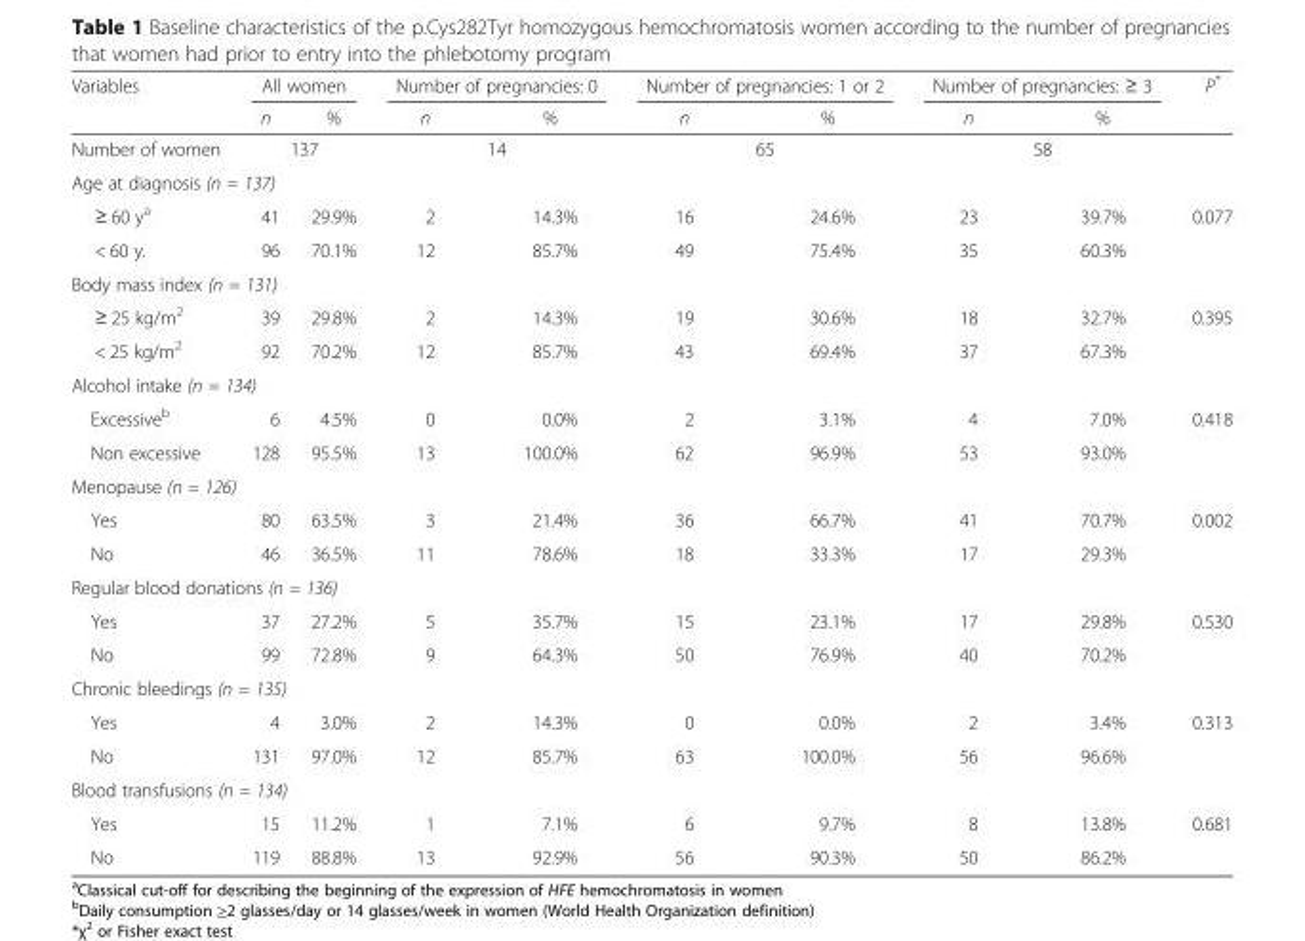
<table><thead><tr><td rowspan="2">Variables</td><td colspan="2">All women</td><td colspan="2">Number of pregnancies: 0</td><td colspan="2">Number of pregnancies: 1 or 2</td><td colspan="2">Number of pregnancies: ≥ 3</td><td rowspan="2">P*</td></tr><tr><td>n</td><td>%</td><td>n</td><td>%</td><td>n</td><td>%</td><td>n</td><td>%</td></tr></thead><tbody><tr><td>Number of women</td><td colspan="2">137</td><td colspan="2">14</td><td colspan="2">65</td><td colspan="2">58</td><td></td></tr><tr><td colspan="10">Age at diagnosis (n = 137)</td></tr><tr><td>≥ 60 y<sup>a</sup></td><td>41</td><td>29.9%</td><td>2</td><td>14.3%</td><td>16</td><td>24.6%</td><td>23</td><td>39.7%</td><td>0.077</td></tr><tr><td>&lt; 60 y.</td><td>96</td><td>70.1%</td><td>12</td><td>85.7%</td><td>49</td><td>75.4%</td><td>35</td><td>60.3%</td><td></td></tr><tr><td colspan="10">Body mass index (n = 131)</td></tr><tr><td>≥ 25 kg/m<sup>2</sup></td><td>39</td><td>29.8%</td><td>2</td><td>14.3%</td><td>19</td><td>30.6%</td><td>18</td><td>32.7%</td><td>0.395</td></tr><tr><td>&lt; 25 kg/m<sup>2</sup></td><td>92</td><td>70.2%</td><td>12</td><td>85.7%</td><td>43</td><td>69.4%</td><td>37</td><td>67.3%</td><td></td></tr><tr><td colspan="10">Alcohol intake (n = 134)</td></tr><tr><td>Excessive<sup>b</sup></td><td>6</td><td>4.5%</td><td>0</td><td>0.0%</td><td>2</td><td>3.1%</td><td>4</td><td>7.0%</td><td>0.418</td></tr><tr><td>Non excessive</td><td>128</td><td>95.5%</td><td>13</td><td>100.0%</td><td>62</td><td>96.9%</td><td>53</td><td>93.0%</td><td></td></tr><tr><td colspan="10">Menopause (n = 126)</td></tr><tr><td>Yes</td><td>80</td><td>63.5%</td><td>3</td><td>21.4%</td><td>36</td><td>66.7%</td><td>41</td><td>70.7%</td><td>0.002</td></tr><tr><td>No</td><td>46</td><td>36.5%</td><td>11</td><td>78.6%</td><td>18</td><td>33.3%</td><td>17</td><td>29.3%</td><td></td></tr><tr><td colspan="10">Regular blood donations (n = 136)</td></tr><tr><td>Yes</td><td>37</td><td>27.2%</td><td>5</td><td>35.7%</td><td>15</td><td>23.1%</td><td>17</td><td>29.8%</td><td>0.530</td></tr><tr><td>No</td><td>99</td><td>72.8%</td><td>9</td><td>64.3%</td><td>50</td><td>76.9%</td><td>40</td><td>70.2%</td><td></td></tr><tr><td colspan="10">Chronic bleedings (n = 135)</td></tr><tr><td>Yes</td><td>4</td><td>3.0%</td><td>2</td><td>14.3%</td><td>0</td><td>0.0%</td><td>2</td><td>3.4%</td><td>0.313</td></tr><tr><td>No</td><td>131</td><td>97.0%</td><td>12</td><td>85.7%</td><td>63</td><td>100.0%</td><td>56</td><td>96.6%</td><td></td></tr><tr><td colspan="10">Blood transfusions (n = 134)</td></tr><tr><td>Yes</td><td>15</td><td>11.2%</td><td>1</td><td>7.1%</td><td>6</td><td>9.7%</td><td>8</td><td>13.8%</td><td>0.681</td></tr><tr><td>No</td><td>119</td><td>88.8%</td><td>13</td><td>92.9%</td><td>56</td><td>90.3%</td><td>50</td><td>86.2%</td><td></td></tr></tbody></table>